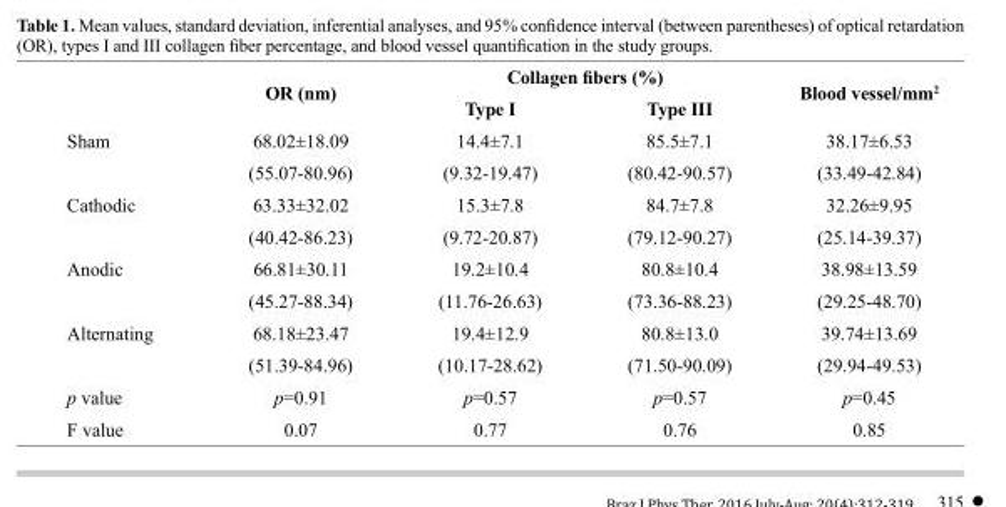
<table><thead><tr><td rowspan="2"></td><td rowspan="2">OR (nm)</td><td colspan="2">Collagen fibers (%)</td><td rowspan="2">Blood vessel/mm<sup>2</sup></td></tr><tr><td>Type I</td><td>Type III</td></tr></thead><tbody><tr><td rowspan="2">Sham</td><td>68.02±18.09</td><td>14.4±7.1</td><td>85.5±7.1</td><td>38.17±6.53</td></tr><tr><td>(55.07-80.96)</td><td>(9.32-19.47)</td><td>(80.42-90.57)</td><td>(33.49-42.84)</td></tr><tr><td rowspan="2">Cathodic</td><td>63.33±32.02</td><td>15.3±7.8</td><td>84.7±7.8</td><td>32.26±9.95</td></tr><tr><td>(40.42-86.23)</td><td>(9.72-20.87)</td><td>(79.12-90.27)</td><td>(25.14-39.37)</td></tr><tr><td rowspan="2">Anodic</td><td>66.81±30.11</td><td>19.2±10.4</td><td>80.8±10.4</td><td>38.98±13.59</td></tr><tr><td>(45.27-88.34)</td><td>(11.76-26.63)</td><td>(73.36-88.23)</td><td>(29.25-48.70)</td></tr><tr><td rowspan="2">Alternating</td><td>68.18±23.47</td><td>19.4±12.9</td><td>80.8±13.0</td><td>39.74±13.69</td></tr><tr><td>(51.39-84.96)</td><td>(10.17-28.62)</td><td>(71.50-90.09)</td><td>(29.94-49.53)</td></tr><tr><td>p value</td><td>p=0.91</td><td>p=0.57</td><td>p=0.57</td><td>p=0.45</td></tr><tr><td>F value</td><td>0.07</td><td>0.77</td><td>0.76</td><td>0.85</td></tr></tbody></table>